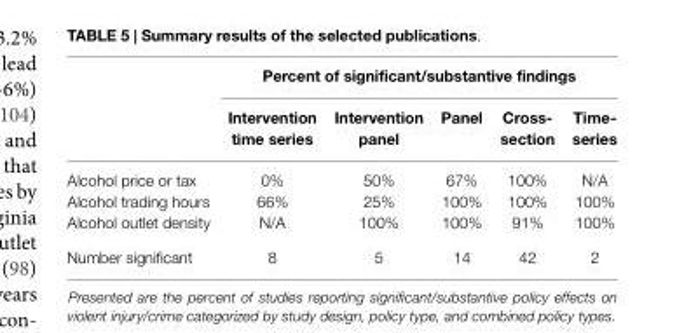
<table><thead><tr><td rowspan="2"></td><td colspan="5">Percent of significant/substantive findings</td></tr><tr><td>Intervention time series</td><td>Intervention panel</td><td>Panel</td><td>Cross- section</td><td>Time- series</td></tr></thead><tbody><tr><td>Alcohol price or tax</td><td>0%</td><td>50%</td><td>67%</td><td>100%</td><td>N/A</td></tr><tr><td>Alcohol trading hours</td><td>66%</td><td>25%</td><td>100%</td><td>100%</td><td>100%</td></tr><tr><td>Alcohol outlet density</td><td>N/A</td><td>100%</td><td>100%</td><td>91%</td><td>100%</td></tr><tr><td>Number significant</td><td>8</td><td>5</td><td>14</td><td>42</td><td>2</td></tr></tbody></table>